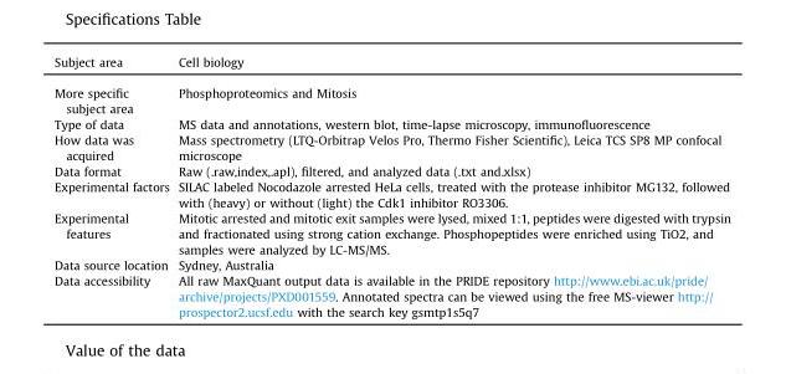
<table><thead><tr><td>Subject area</td><td>Cell biology</td></tr></thead><tbody><tr><td>More specific subject area</td><td>Phosphoproteomics and Mitosis</td></tr><tr><td>Type of data</td><td>MS data and annotations, western blot, time-lapse microscopy, immunofluorescence</td></tr><tr><td>How data was acquired</td><td>Mass spectrometry (LTQ-Orbitrap Velos Pro, Thermo Fisher Scientific), Leica TCS SP8 MP confocal microscope</td></tr><tr><td>Data format</td><td>Raw (.raw,index,.apl), filtered, and analyzed data (.txt and.xlsx)</td></tr><tr><td>Experimental factors</td><td>SILAC labeled Nocodazole arrested HeLa cells, treated with the protease inhibitor MG132, followed with (heavy) or without (light) the Cdk1 inhibitor RO3306.</td></tr><tr><td>Experimental features</td><td>Mitotic arrested and mitotic exit samples were lysed, mixed 1:1, peptides were digested with trypsin and fractionated using strong cation exchange. Phosphopeptides were enriched using TiO2, and samples were analyzed by LC-MS/MS.</td></tr><tr><td>Data source location</td><td>Sydney, Australia</td></tr><tr><td>Data accessibility</td><td>All raw MaxQuant output data is available in the PRIDE repository http://www.ebi.ac.uk/pride/ archive/projects/PXD001559. Annotated spectra can be viewed using the free MS-viewer http:// prospector2.ucsf.edu with the search key gsmtp1s5q7</td></tr></tbody></table>